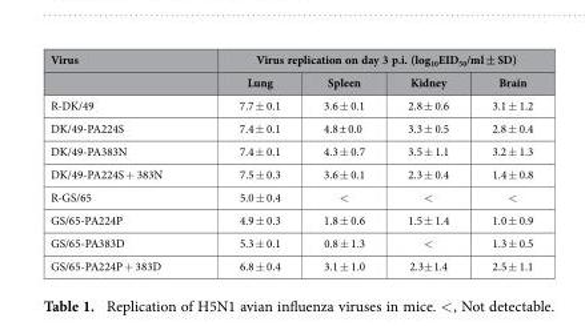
<table><thead><tr><td rowspan="2">Virus</td><td colspan="4">Virus replication on day 3 p.i. (log<sub>10</sub>EID<sub>50</sub>/ml ± SD)</td></tr><tr><td>Lung</td><td>Spleen</td><td>Kidney</td><td>Brain</td></tr></thead><tbody><tr><td>R-DK/49</td><td>7.7 ± 0.1</td><td>3.6 ± 0.1</td><td>2.8 ± 0.6</td><td>3.1 ± 1.2</td></tr><tr><td>DK/49-PA224S</td><td>7.4 ± 0.1</td><td>4.8 ± 0.0</td><td>3.3 ± 0.5</td><td>2.8 ± 0.4</td></tr><tr><td>DK/49-PA383N</td><td>7.4 ± 0.1</td><td>4.3 ± 0.7</td><td>3.5 ± 1.1</td><td>3.2 ± 1.3</td></tr><tr><td>DK/49-PA224S + 383N</td><td>7.5 ± 0.3</td><td>3.6 ± 0.1</td><td>2.3 ± 0.4</td><td>1.4 ± 0.8</td></tr><tr><td>R-GS/65</td><td>5.0 ± 0.4</td><td>&lt;</td><td>&lt;</td><td>&lt;</td></tr><tr><td>GS/65-PA224P</td><td>4.9 ± 0.3</td><td>1.8 ± 0.6</td><td>1.5 ± 1.4</td><td>1.0 ± 0.9</td></tr><tr><td>GS/65-PA383D</td><td>5.3 ± 0.1</td><td>0.8 ± 1.3</td><td>&lt;</td><td>1.3 ± 0.5</td></tr><tr><td>GS/65-PA224P + 383D</td><td>6.8 ± 0.4</td><td>3.1 ± 1.0</td><td>2.3± 1.4</td><td>2.5 ± 1.1</td></tr></tbody></table>